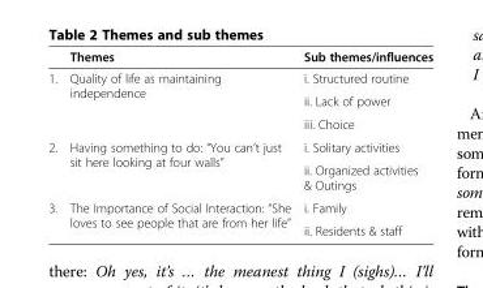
<table><thead><tr><td></td><td>Themes</td><td>Sub themes/influences</td></tr></thead><tbody><tr><td rowspan="3">1.</td><td rowspan="3">Quality of life as maintaining independence</td><td>i. Structured routine</td></tr><tr><td>ii. Lack of power</td></tr><tr><td>iii. Choice</td></tr><tr><td rowspan="2">2.</td><td rowspan="2">Having something to do: “You can’t just sit here looking at four walls”</td><td>i. Solitary activities</td></tr><tr><td>ii. Organized activities &amp; Outings</td></tr><tr><td rowspan="2">3.</td><td rowspan="2">The Importance of Social Interaction: “She loves to see people that are from her life”</td><td>i. Family</td></tr><tr><td>ii. Residents &amp; staff</td></tr></tbody></table>